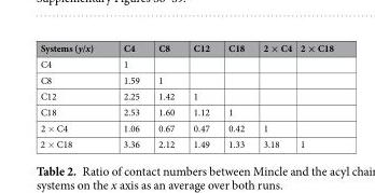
<table><thead><tr><td>Systems (y/x)</td><td>C4</td><td>C8</td><td>C12</td><td>C18</td><td>2 × C4</td><td>2 × C18</td></tr></thead><tbody><tr><td>C4</td><td>1</td><td></td><td></td><td></td><td></td><td></td></tr><tr><td>C8</td><td>1.59</td><td>1</td><td></td><td></td><td></td><td></td></tr><tr><td>C12</td><td>2.25</td><td>1.42</td><td>1</td><td></td><td></td><td></td></tr><tr><td>C18</td><td>2.53</td><td>1.60</td><td>1.12</td><td>1</td><td></td><td></td></tr><tr><td>2 × C4</td><td>1.06</td><td>0.67</td><td>0.47</td><td>0.42</td><td>1</td><td></td></tr><tr><td>2 × C18</td><td>3.36</td><td>2.12</td><td>1.49</td><td>1.33</td><td>3.18</td><td>1</td></tr></tbody></table>